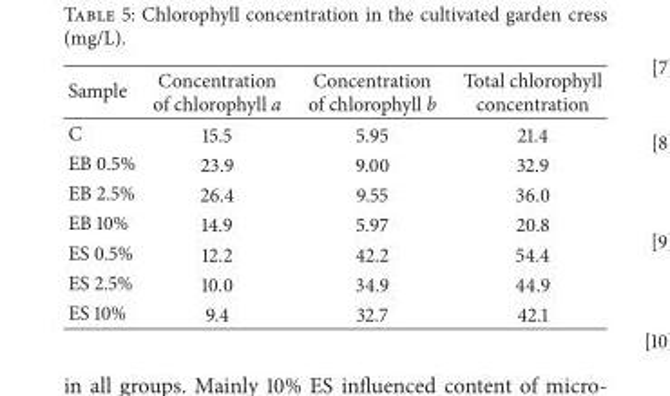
<table><thead><tr><td>Sample</td><td>Concentration of chlorophyll a</td><td>Concentration of chlorophyll b</td><td>Total chlorophyll concentration</td></tr></thead><tbody><tr><td>C</td><td>15.5</td><td>5.95</td><td>21.4</td></tr><tr><td>EB 0.5%</td><td>23.9</td><td>9.00</td><td>32.9</td></tr><tr><td>EB 2.5%</td><td>26.4</td><td>9.55</td><td>36.0</td></tr><tr><td>EB 10%</td><td>14.9</td><td>5.97</td><td>20.8</td></tr><tr><td>ES 0.5%</td><td>12.2</td><td>42.2</td><td>54.4</td></tr><tr><td>ES 2.5%</td><td>10.0</td><td>34.9</td><td>44.9</td></tr><tr><td>ES 10%</td><td>9.4</td><td>32.7</td><td>42.1</td></tr></tbody></table>